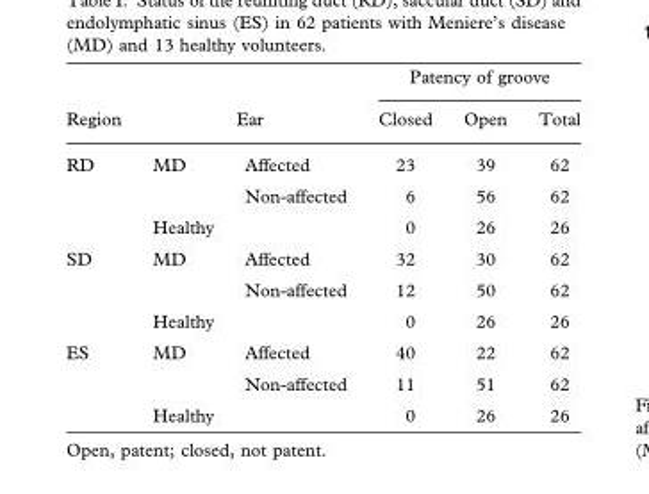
<table><thead><tr><td rowspan="2">Region</td><td></td><td></td><td colspan="3">Patency of groove</td></tr><tr><td colspan="2">Ear</td><td>Closed</td><td>Open</td><td>Total</td></tr></thead><tbody><tr><td rowspan="3">RD</td><td>MD</td><td>Affected</td><td>23</td><td>39</td><td>62</td></tr><tr><td></td><td>Non-affected</td><td>6</td><td>56</td><td>62</td></tr><tr><td>Healthy</td><td></td><td>0</td><td>26</td><td>26</td></tr><tr><td rowspan="3">SD</td><td>MD</td><td>Affected</td><td>32</td><td>30</td><td>62</td></tr><tr><td></td><td>Non-affected</td><td>12</td><td>50</td><td>62</td></tr><tr><td>Healthy</td><td></td><td>0</td><td>26</td><td>26</td></tr><tr><td rowspan="3">ES</td><td>MD</td><td>Affected</td><td>40</td><td>22</td><td>62</td></tr><tr><td></td><td>Non-affected</td><td>11</td><td>51</td><td>62</td></tr><tr><td>Healthy</td><td></td><td>0</td><td>26</td><td>26</td></tr></tbody></table>